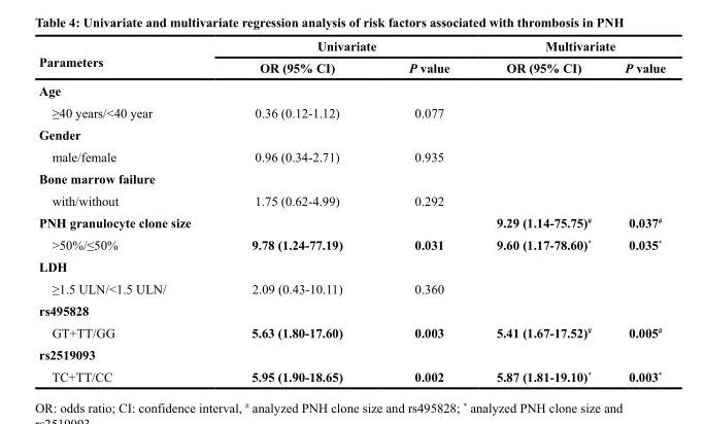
<table><thead><tr><td rowspan="2">Parameters</td><td colspan="2">Univariate</td><td colspan="2">Multivariate</td></tr><tr><td>OR (95% CI)</td><td>P value</td><td>OR (95% CI)</td><td>P value</td></tr></thead><tbody><tr><td colspan="5">Age</td></tr><tr><td>≥40 years/&lt;40 year</td><td>0.36 (0.12-1.12)</td><td>0.077</td><td></td><td></td></tr><tr><td colspan="5">Gender</td></tr><tr><td>male/female</td><td>0.96 (0.34-2.71)</td><td>0.935</td><td></td><td></td></tr><tr><td colspan="5">Bone marrow failure</td></tr><tr><td>with/without</td><td>1.75 (0.62-4.99)</td><td>0.292</td><td></td><td></td></tr><tr><td>PNH granulocyte clone size</td><td></td><td></td><td>9.29 (1.14-75.75)<sup>#</sup></td><td>0.037<sup>#</sup></td></tr><tr><td>&gt;50%/≤50%</td><td>9.78 (1.24-77.19)</td><td>0.031</td><td>9.60 (1.17-78.60)*</td><td>0.035*</td></tr><tr><td colspan="5">LDH</td></tr><tr><td>≥1.5 ULN/&lt;1.5 ULN/</td><td>2.09 (0.43-10.11)</td><td>0.360</td><td></td><td></td></tr><tr><td colspan="5">rs495828</td></tr><tr><td>GT+TT/GG</td><td>5.63 (1.80-17.60)</td><td>0.003</td><td>5.41 (1.67-17.52)<sup>#</sup></td><td>0.005<sup>#</sup></td></tr><tr><td colspan="5">rs2519093</td></tr><tr><td>TC+TT/CC</td><td>5.95 (1.90-18.65)</td><td>0.002</td><td>5.87 (1.81-19.10)*</td><td>0.003*</td></tr></tbody></table>